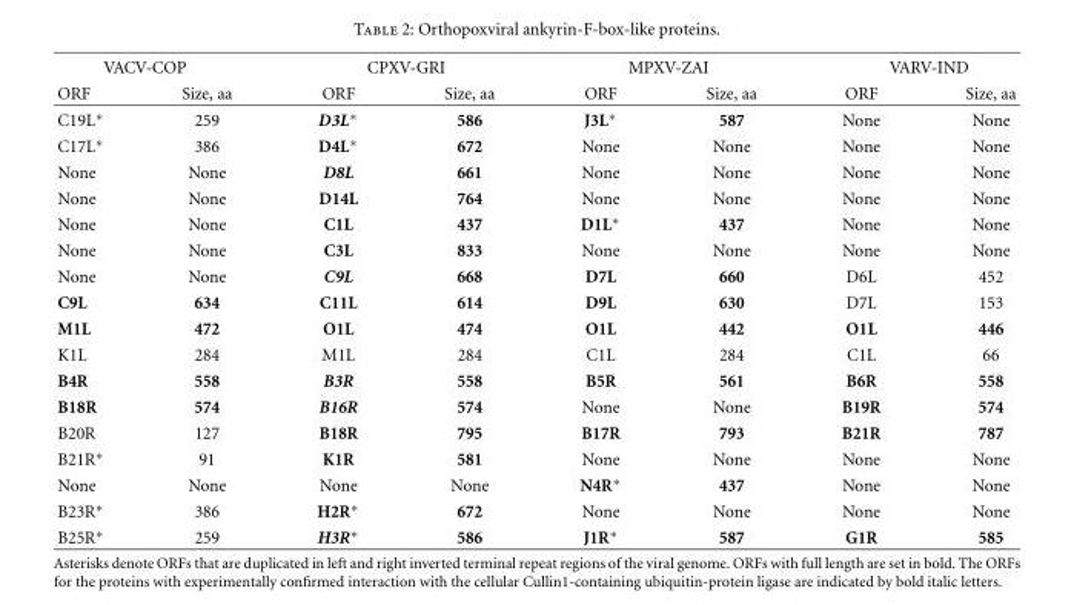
<table><thead><tr><td colspan="2">VACV-COP</td><td colspan="2">CPXV-GRI</td><td colspan="2">MPXV-ZAI</td><td colspan="2">VARV-IND</td></tr><tr><td>ORF</td><td>Size, aa</td><td>ORF</td><td>Size, aa</td><td>ORF</td><td>Size, aa</td><td>ORF</td><td>Size, aa</td></tr></thead><tbody><tr><td>C19L∗</td><td>259</td><td>D3L∗</td><td>586</td><td>J3L∗</td><td>587</td><td>None</td><td>None</td></tr><tr><td>C17L∗</td><td>386</td><td>D4L∗</td><td>672</td><td>None</td><td>None</td><td>None</td><td>None</td></tr><tr><td>None</td><td>None</td><td>D8L</td><td>661</td><td>None</td><td>None</td><td>None</td><td>None</td></tr><tr><td>None</td><td>None</td><td>D14L</td><td>764</td><td>None</td><td>None</td><td>None</td><td>None</td></tr><tr><td>None</td><td>None</td><td>C1L</td><td>437</td><td>D1L∗</td><td>437</td><td>None</td><td>None</td></tr><tr><td>None</td><td>None</td><td>C3L</td><td>833</td><td>None</td><td>None</td><td>None</td><td>None</td></tr><tr><td>None</td><td>None</td><td>C9L</td><td>668</td><td>D7L</td><td>660</td><td>D6L</td><td>452</td></tr><tr><td>C9L</td><td>634</td><td>C11L</td><td>614</td><td>D9L</td><td>630</td><td>D7L</td><td>153</td></tr><tr><td>M1L</td><td>472</td><td>O1L</td><td>474</td><td>O1L</td><td>442</td><td>O1L</td><td>446</td></tr><tr><td>K1L</td><td>284</td><td>M1L</td><td>284</td><td>C1L</td><td>284</td><td>C1L</td><td>66</td></tr><tr><td>B4R</td><td>558</td><td>B3R</td><td>558</td><td>B5R</td><td>561</td><td>B6R</td><td>558</td></tr><tr><td>B18R</td><td>574</td><td>B16R</td><td>574</td><td>None</td><td>None</td><td>B19R</td><td>574</td></tr><tr><td>B20R</td><td>127</td><td>B18R</td><td>795</td><td>B17R</td><td>793</td><td>B21R</td><td>787</td></tr><tr><td>B21R∗</td><td>91</td><td>K1R</td><td>581</td><td>None</td><td>None</td><td>None</td><td>None</td></tr><tr><td>None</td><td>None</td><td>None</td><td>None</td><td>N4R∗</td><td>437</td><td>None</td><td>None</td></tr><tr><td>B23R∗</td><td>386</td><td>H2R∗</td><td>672</td><td>None</td><td>None</td><td>None</td><td>None</td></tr><tr><td>B25R∗</td><td>259</td><td>H3R∗</td><td>586</td><td>J1R∗</td><td>587</td><td>G1R</td><td>585</td></tr></tbody></table>